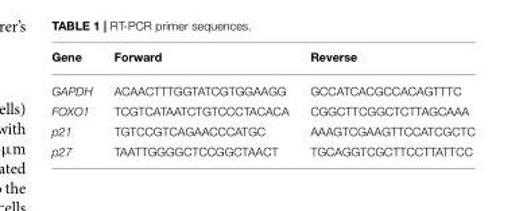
<table><thead><tr><td>Gene</td><td>Forward</td><td>Reverse</td></tr></thead><tbody><tr><td>GAPDH</td><td>ACAACTTTGGTATCGTGGAAGG</td><td>GCCATCACGCCACAGTTTC</td></tr><tr><td>FOXO1</td><td>TCGTCATAATCTGTCCCTACACA</td><td>CGGCTTCGGCTCTTAGCAAA</td></tr><tr><td>p21</td><td>TGTCCGTCAGAACCCATGC</td><td>AAAGTCGAAGTTCCATCGCTC</td></tr><tr><td>p27</td><td>TAATTGGGGCTCCGGCTAACT</td><td>TGCAGGTCGCTTCCTTATTCC</td></tr></tbody></table>